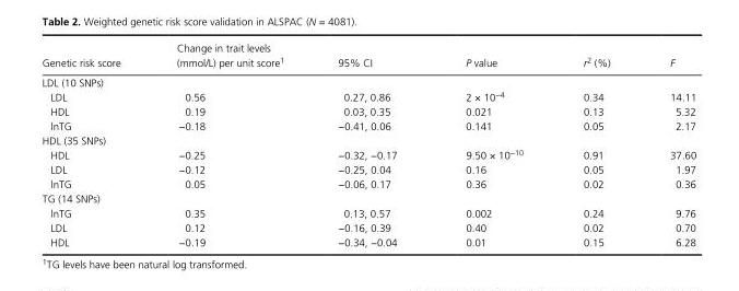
<table><thead><tr><td>Genetic risk score</td><td>Change in trait levels (mmol/L) per unit score1</td><td>95% CI</td><td>P value</td><td>r<sup>2</sup> (%)</td><td>F</td></tr></thead><tbody><tr><td colspan="6">LDL (10 SNPs)</td></tr><tr><td>LDL</td><td>0.56</td><td>0.27, 0.86</td><td>2 × 10<sup>−4</sup></td><td>0.34</td><td>14.11</td></tr><tr><td>HDL</td><td>0.19</td><td>0.03, 0.35</td><td>0.021</td><td>0.13</td><td>5.32</td></tr><tr><td>lnTG</td><td>−0.18</td><td>−0.41, 0.06</td><td>0.141</td><td>0.05</td><td>2.17</td></tr><tr><td colspan="6">HDL (35 SNPs)</td></tr><tr><td>HDL</td><td>−0.25</td><td>−0.32, −0.17</td><td>9.50 × 10<sup>−10</sup></td><td>0.91</td><td>37.60</td></tr><tr><td>LDL</td><td>−0.12</td><td>−0.25, 0.04</td><td>0.16</td><td>0.05</td><td>1.97</td></tr><tr><td>lnTG</td><td>0.05</td><td>−0.06, 0.17</td><td>0.36</td><td>0.02</td><td>0.36</td></tr><tr><td colspan="6">TG (14 SNPs)</td></tr><tr><td>lnTG</td><td>0.35</td><td>0.13, 0.57</td><td>0.002</td><td>0.24</td><td>9.76</td></tr><tr><td>LDL</td><td>0.12</td><td>−0.16, 0.39</td><td>0.40</td><td>0.02</td><td>0.70</td></tr><tr><td>HDL</td><td>−0.19</td><td>−0.34, −0.04</td><td>0.01</td><td>0.15</td><td>6.28</td></tr></tbody></table>